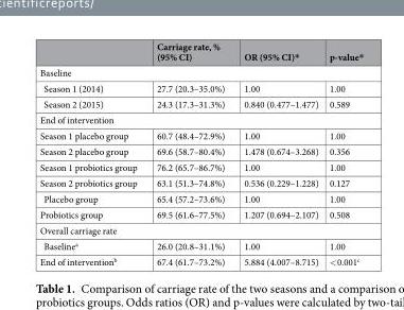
<table><thead><tr><td></td><td>Carriage rate, % (95% CI)</td><td>OR (95% CI)*</td><td>p-value*</td></tr></thead><tbody><tr><td colspan="4">Baseline</td></tr><tr><td>Season 1 (2014)</td><td>27.7 (20.3–35.0%)</td><td>1.00</td><td>1.00</td></tr><tr><td>Season 2 (2015)</td><td>24.3 (17.3–31.3%)</td><td>0.840 (0.477–1.477)</td><td>0.589</td></tr><tr><td colspan="4">End of intervention</td></tr><tr><td>Season 1 placebo group</td><td>60.7 (48.4–72.9%)</td><td>1.00</td><td>1.00</td></tr><tr><td>Season 2 placebo group</td><td>69.6 (58.7–80.4%)</td><td>1.478 (0.674–3.268)</td><td>0.356</td></tr><tr><td>Season 1 probiotics group</td><td>76.2 (65.7–86.7%)</td><td>1.00</td><td>1.00</td></tr><tr><td>Season 2 probiotics group</td><td>63.1 (51.3–74.8%)</td><td>0.536 (0.229–1.228)</td><td>0.127</td></tr><tr><td>Placebo group</td><td>65.4 (57.2–73.6%)</td><td>1.00</td><td>1.00</td></tr><tr><td>Probiotics group</td><td>69.5 (61.6–77.5%)</td><td>1.207 (0.694–2.107)</td><td>0.508</td></tr><tr><td colspan="4">Overall carriage rate</td></tr><tr><td>Baseline<sup>a</sup></td><td>26.0 (20.8–31.1%)</td><td>1.00</td><td>1.00</td></tr><tr><td>End of intervention<sup>b</sup></td><td>67.4 (61.7–73.2%)</td><td>5.884 (4.007–8.715)</td><td>&lt;0.001<sup>c</sup></td></tr></tbody></table>